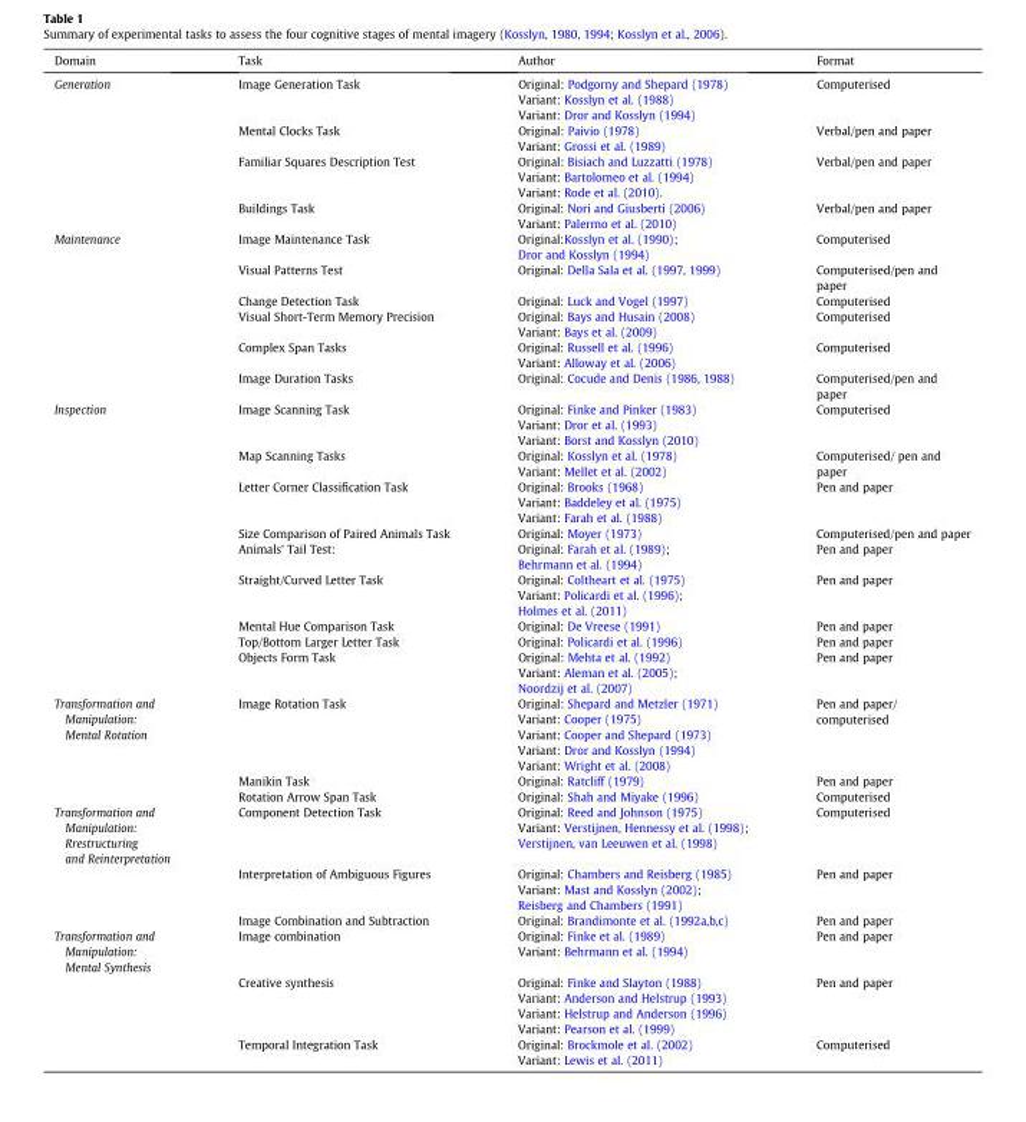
<table><thead><tr><td>Domain</td><td>Task</td><td>Author</td><td>Format</td></tr></thead><tbody><tr><td rowspan="4">Generation</td><td>Image Generation Task</td><td>Original: Podgorny and Shepard (1978) Variant: Kosslyn et al. (1988) Variant: Dror and Kosslyn (1994)</td><td>Computerised</td></tr><tr><td>Mental Clocks Task</td><td>Original: Paivio (1978) Variant: Grossi et al. (1989)</td><td>Verbal/pen and paper</td></tr><tr><td>Familiar Squares Description Test</td><td>Original: Bisiach and Luzzatti (1978) Variant: Bartolomeo et al. (1994) Variant: Rode et al. (2010).</td><td>Verbal/pen and paper</td></tr><tr><td>Buildings Task</td><td>Original: Nori and Giusberti (2006) Variant: Palermo et al. (2010)</td><td>Verbal/pen and paper</td></tr><tr><td rowspan="6">Maintenance</td><td>Image Maintenance Task</td><td>Original:Kosslyn et al. (1990); Dror and Kosslyn (1994)</td><td>Computerised</td></tr><tr><td>Visual Patterns Test</td><td>Original: Della Sala et al. (1997, 1999)</td><td>Computerised/pen and paper</td></tr><tr><td>Change Detection Task</td><td>Original: Luck and Vogel (1997)</td><td>Computerised</td></tr><tr><td>Visual Short-Term Memory Precision</td><td>Original: Bays and Husain (2008) Variant: Bays et al. (2009)</td><td>Computerised</td></tr><tr><td>Complex Span Tasks</td><td>Original: Russell et al. (1996) Variant: Alloway et al. (2006)</td><td>Computerised</td></tr><tr><td>Image Duration Tasks</td><td>Original: Cocude and Denis (1986, 1988)</td><td>Computerised/pen and paper</td></tr><tr><td rowspan="9">Inspection</td><td>Image Scanning Task</td><td>Original: Finke and Pinker (1983) Variant: Dror et al. (1993) Variant: Borst and Kosslyn (2010)</td><td>Computerised</td></tr><tr><td>Map Scanning Tasks</td><td>Original: Kosslyn et al. (1978) Variant: Mellet et al. (2002)</td><td>Computerised/ pen and paper</td></tr><tr><td>Letter Corner Classification Task</td><td>Original: Brooks (1968) Variant: Baddeley et al. (1975) Variant: Farah et al. (1988)</td><td>Pen and paper</td></tr><tr><td>Size Comparison of Paired Animals Task</td><td>Original: Moyer (1973)</td><td>Computerised/pen and paper</td></tr><tr><td>Animals&#x27; Tail Test:</td><td>Original: Farah et al. (1989); Behrmann et al. (1994)</td><td>Pen and paper</td></tr><tr><td>Straight/Curved Letter Task</td><td>Original: Coltheart et al. (1975) Variant: Policardi et al. (1996); Holmes et al. (2011)</td><td>Pen and paper</td></tr><tr><td>Mental Hue Comparison Task</td><td>Original: De Vreese (1991)</td><td>Pen and paper</td></tr><tr><td>Top/Bottom Larger Letter Task</td><td>Original: Policardi et al. (1996)</td><td>Pen and paper</td></tr><tr><td>Objects Form Task</td><td>Original: Mehta et al. (1992) Variant: Aleman et al. (2005); Noordzij et al. (2007)</td><td>Pen and paper</td></tr><tr><td rowspan="3">Transformation and Manipulation: Mental Rotation</td><td>Image Rotation Task</td><td>Original: Shepard and Metzler (1971) Variant: Cooper (1975) Variant: Cooper and Shepard (1973) Variant: Dror and Kosslyn (1994) Variant: Wright et al. (2008)</td><td>Pen and paper/ computerised</td></tr><tr><td>Manikin Task</td><td>Original: Ratcliff (1979)</td><td>Pen and paper</td></tr><tr><td>Rotation Arrow Span Task</td><td>Original: Shah and Miyake (1996)</td><td>Computerised</td></tr><tr><td rowspan="3">Transformation and Manipulation: Rrestructuring and Reinterpretation</td><td>Component Detection Task</td><td>Original: Reed and Johnson (1975) Variant: Verstijnen, Hennessy et al. (1998); Verstijnen, van Leeuwen et al. (1998)</td><td>Computerised</td></tr><tr><td>Interpretation of Ambiguous Figures</td><td>Original: Chambers and Reisberg (1985) Variant: Mast and Kosslyn (2002); Reisberg and Chambers (1991)</td><td>Pen and paper</td></tr><tr><td>Image Combination and Subtraction</td><td>Original: Brandimonte et al. (1992a,b,c)</td><td>Pen and paper</td></tr><tr><td rowspan="3">Transformation and Manipulation: Mental Synthesis</td><td>Image combination</td><td>Original: Finke et al. (1989) Variant: Behrmann et al. (1994)</td><td>Pen and paper</td></tr><tr><td>Creative synthesis</td><td>Original: Finke and Slayton (1988) Variant: Anderson and Helstrup (1993) Variant: Helstrup and Anderson (1996) Variant: Pearson et al. (1999)</td><td>Pen and paper</td></tr><tr><td>Temporal Integration Task</td><td>Original: Brockmole et al. (2002) Variant: Lewis et al. (2011)</td><td>Computerised</td></tr></tbody></table>